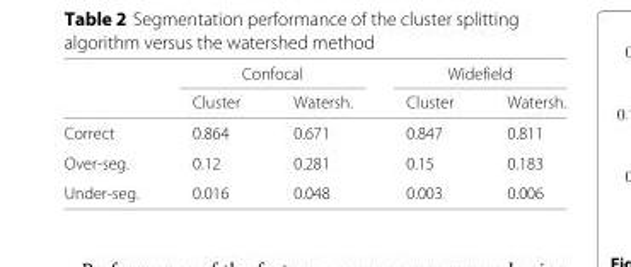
<table><thead><tr><td rowspan="2"></td><td colspan="2">Confocal</td><td colspan="2">Widefield</td></tr><tr><td>Cluster</td><td>Watersh.</td><td>Cluster</td><td>Watersh.</td></tr></thead><tbody><tr><td>Correct</td><td>0.864</td><td>0.671</td><td>0.847</td><td>0.811</td></tr><tr><td>Over-seg.</td><td>0.12</td><td>0.281</td><td>0.15</td><td>0.183</td></tr><tr><td>Under-seg.</td><td>0.016</td><td>0.048</td><td>0.003</td><td>0.006</td></tr></tbody></table>